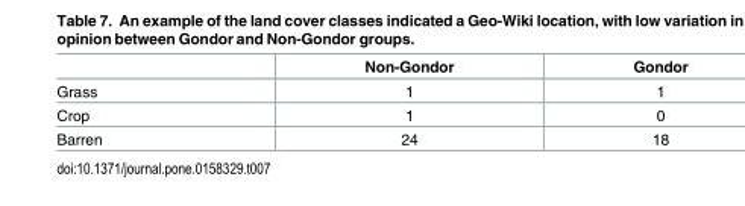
<table><thead><tr><td></td><td>Non-Gondor</td><td>Gondor</td></tr></thead><tbody><tr><td>Grass</td><td>1</td><td>1</td></tr><tr><td>Crop</td><td>1</td><td>0</td></tr><tr><td>Barren</td><td>24</td><td>18</td></tr></tbody></table>